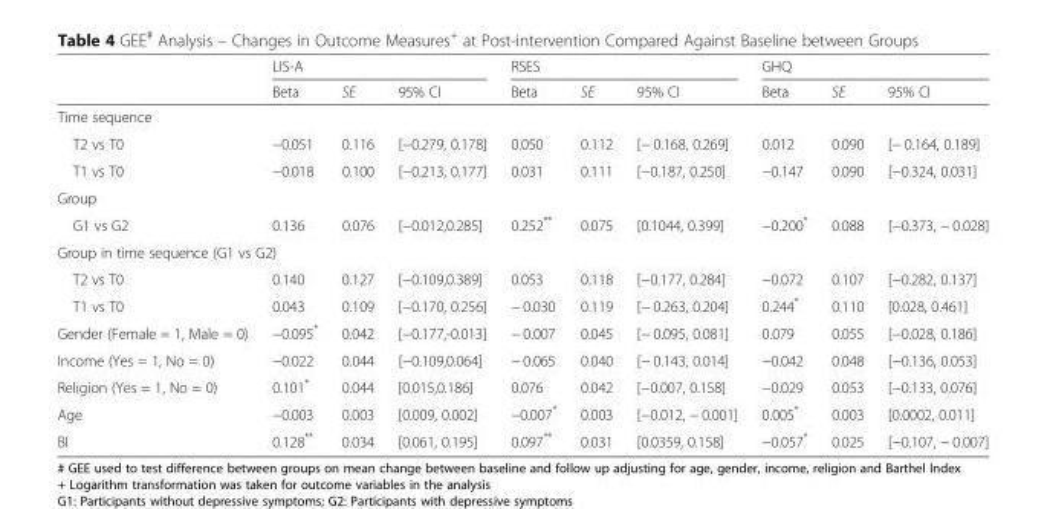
<table><thead><tr><td rowspan="2"></td><td colspan="3">LIS-A</td><td colspan="3">RSES</td><td colspan="3">GHQ</td></tr><tr><td>Beta</td><td>SE</td><td>95% CI</td><td>Beta</td><td>SE</td><td>95% CI</td><td>Beta</td><td>SE</td><td>95% CI</td></tr></thead><tbody><tr><td colspan="10">Time sequence</td></tr><tr><td>T2 vs T0</td><td>−0.051</td><td>0.116</td><td>[−0.279, 0.178]</td><td>0.050</td><td>0.112</td><td>[− 0.168, 0.269]</td><td>0.012</td><td>0.090</td><td>[− 0.164, 0.189]</td></tr><tr><td>T1 vs T0</td><td>−0.018</td><td>0.100</td><td>[−0.213, 0.177]</td><td>0.031</td><td>0.111</td><td>[−0.187, 0.250]</td><td>−0.147</td><td>0.090</td><td>[−0.324, 0.031]</td></tr><tr><td colspan="10">Group</td></tr><tr><td>G1 vs G2</td><td>0.136</td><td>0.076</td><td>[−0.012,0.285]</td><td>0.252**</td><td>0.075</td><td>[0.1044, 0.399]</td><td>−0.200*</td><td>0.088</td><td>[−0.373, − 0.028]</td></tr><tr><td colspan="10">Group in time sequence (G1 vs G2)</td></tr><tr><td>T2 vs T0</td><td>0.140</td><td>0.127</td><td>[−0.109,0.389]</td><td>0.053</td><td>0.118</td><td>[−0.177, 0.284]</td><td>−0.072</td><td>0.107</td><td>[−0.282, 0.137]</td></tr><tr><td>T1 vs T0</td><td>0.043</td><td>0.109</td><td>[−0.170, 0.256]</td><td>− 0.030</td><td>0.119</td><td>[− 0.263, 0.204]</td><td>0.244*</td><td>0.110</td><td>[0.028, 0.461]</td></tr><tr><td>Gender (Female = 1, Male = 0)</td><td>−0.095*</td><td>0.042</td><td>[−0.177,-0.013]</td><td>− 0.007</td><td>0.045</td><td>[− 0.095, 0.081]</td><td>0.079</td><td>0.055</td><td>[−0.028, 0.186]</td></tr><tr><td>Income (Yes = 1, No = 0)</td><td>−0.022</td><td>0.044</td><td>[−0.109,0.064]</td><td>− 0.065</td><td>0.040</td><td>[− 0.143, 0.014]</td><td>−0.042</td><td>0.048</td><td>[−0.136, 0.053]</td></tr><tr><td>Religion (Yes = 1, No = 0)</td><td>0.101*</td><td>0.044</td><td>[0.015,0.186]</td><td>0.076</td><td>0.042</td><td>[−0.007, 0.158]</td><td>−0.029</td><td>0.053</td><td>[−0.133, 0.076]</td></tr><tr><td>Age</td><td>−0.003</td><td>0.003</td><td>[0.009, 0.002]</td><td>−0.007*</td><td>0.003</td><td>[−0.012, − 0.001]</td><td>0.005*</td><td>0.003</td><td>[0.0002, 0.011]</td></tr><tr><td>BI</td><td>0.128**</td><td>0.034</td><td>[0.061, 0.195]</td><td>0.097**</td><td>0.031</td><td>[0.0359, 0.158]</td><td>−0.057*</td><td>0.025</td><td>[−0.107, − 0.007]</td></tr></tbody></table>